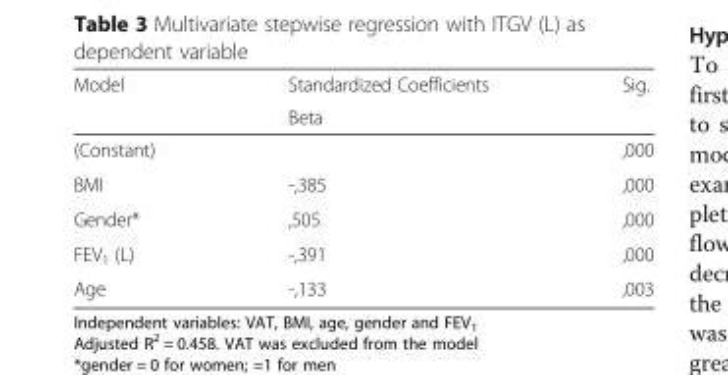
<table><thead><tr><td rowspan="2">Model</td><td rowspan="2">Standardized Coefficients Beta</td><td rowspan="2">Sig.</td></tr><tr></tr></thead><tbody><tr><td>(Constant)</td><td></td><td>,000</td></tr><tr><td>BMI</td><td>-,385</td><td>,000</td></tr><tr><td>Gender*</td><td>,505</td><td>,000</td></tr><tr><td>FEV<sub>1</sub> (L)</td><td>-,391</td><td>,000</td></tr><tr><td>Age</td><td>-,133</td><td>,003</td></tr></tbody></table>